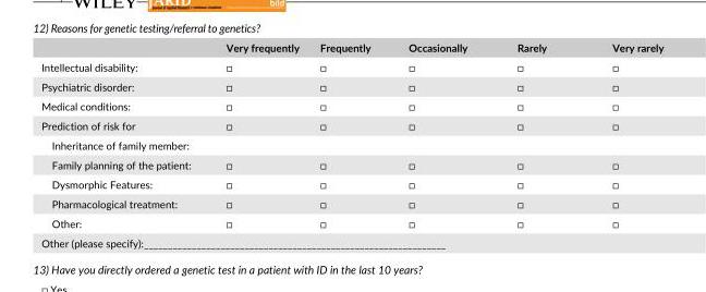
<table><thead><tr><td></td><td>Very frequently</td><td>Frequently</td><td>Occasionally</td><td>Rarely</td><td>Very rarely</td></tr></thead><tbody><tr><td>Intellectual disability:</td><td>□</td><td>□</td><td>□</td><td>□</td><td>□</td></tr><tr><td>Psychiatric disorder:</td><td>□</td><td>□</td><td>□</td><td>□</td><td>□</td></tr><tr><td>Medical conditions:</td><td>□</td><td>□</td><td>□</td><td>□</td><td>□</td></tr><tr><td>Prediction of risk for</td><td>□</td><td>□</td><td>□</td><td>□</td><td>□</td></tr><tr><td colspan="6">Inheritance of family member:</td></tr><tr><td>Family planning of the patient:</td><td>□</td><td>□</td><td>□</td><td>□</td><td>□</td></tr><tr><td>Dysmorphic Features:</td><td>□</td><td>□</td><td>□</td><td>□</td><td>□</td></tr><tr><td>Pharmacological treatment:</td><td>□</td><td>□</td><td>□</td><td>□</td><td>□</td></tr><tr><td>Other:</td><td>□</td><td>□</td><td>□</td><td>□</td><td>□</td></tr><tr><td colspan="6">Other (please specify):_______________________________________________________________</td></tr></tbody></table>